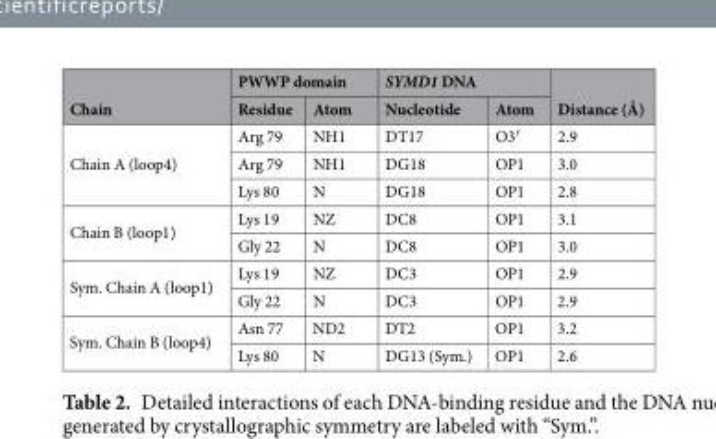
<table><thead><tr><td rowspan="2">Chain</td><td colspan="2">PWWP domain</td><td colspan="2">SYMD1 DNA</td><td rowspan="2">Distance (Å)</td></tr><tr><td>Residue</td><td>Atom</td><td>Nucleotide</td><td>Atom</td></tr></thead><tbody><tr><td rowspan="3">Chain A (loop4)</td><td>Arg 79</td><td>NH1</td><td>DT17</td><td>O3′</td><td>2.9</td></tr><tr><td>Arg 79</td><td>NH1</td><td>DG18</td><td>OP1</td><td>3.0</td></tr><tr><td>Lys 80</td><td>N</td><td>DG18</td><td>OP1</td><td>2.8</td></tr><tr><td rowspan="2">Chain B (loop1)</td><td>Lys 19</td><td>NZ</td><td>DC8</td><td>OP1</td><td>3.1</td></tr><tr><td>Gly 22</td><td>N</td><td>DC8</td><td>OP1</td><td>3.0</td></tr><tr><td rowspan="2">Sym. Chain A (loop1)</td><td>Lys 19</td><td>NZ</td><td>DC3</td><td>OP1</td><td>2.9</td></tr><tr><td>Gly 22</td><td>N</td><td>DC3</td><td>OP1</td><td>2.9</td></tr><tr><td rowspan="2">Sym. Chain B (loop4)</td><td>Asn 77</td><td>ND2</td><td>DT2</td><td>OP1</td><td>3.2</td></tr><tr><td>Lys 80</td><td>N</td><td>DG13 (Sym.)</td><td>OP1</td><td>2.6</td></tr></tbody></table>